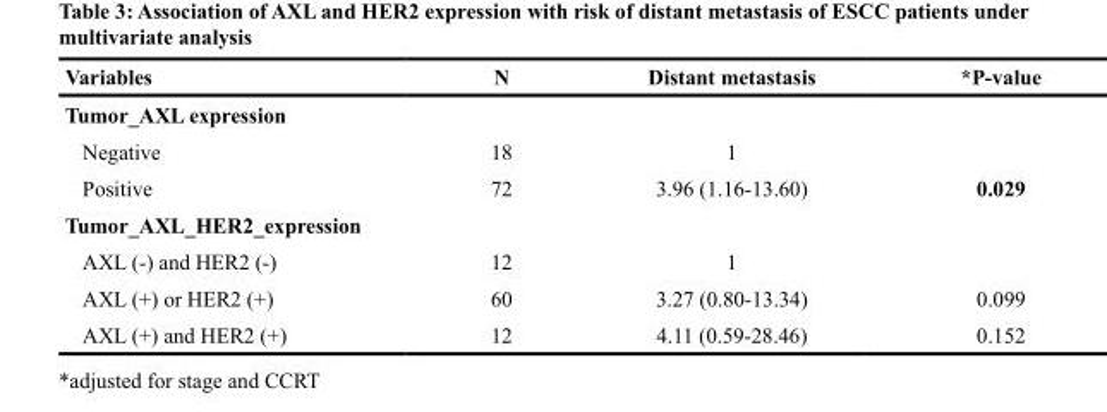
<table><thead><tr><td>Variables</td><td>N</td><td>Distant metastasis</td><td>*P-value</td></tr></thead><tbody><tr><td colspan="4">Tumor_AXL expression</td></tr><tr><td>Negative</td><td>18</td><td>1</td><td></td></tr><tr><td>Positive</td><td>72</td><td>3.96 (1.16-13.60)</td><td>0.029</td></tr><tr><td colspan="4">Tumor_AXL_HER2_expression</td></tr><tr><td>AXL (-) and HER2 (-)</td><td>12</td><td>1</td><td></td></tr><tr><td>AXL (+) or HER2 (+)</td><td>60</td><td>3.27 (0.80-13.34)</td><td>0.099</td></tr><tr><td>AXL (+) and HER2 (+)</td><td>12</td><td>4.11 (0.59-28.46)</td><td>0.152</td></tr></tbody></table>